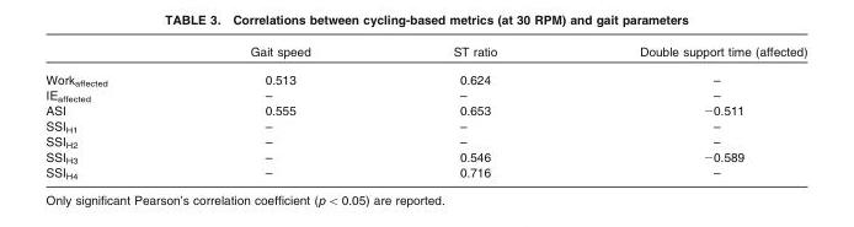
<table><thead><tr><td></td><td>Gait speed</td><td>ST ratio</td><td>Double support time (affected)</td></tr></thead><tbody><tr><td>Work<sub>affected</sub></td><td>0.513</td><td>0.624</td><td>–</td></tr><tr><td>IE<sub>affected</sub></td><td>–</td><td>–</td><td>–</td></tr><tr><td>ASI</td><td>0.555</td><td>0.653</td><td>−0.511</td></tr><tr><td>SSI<sub>H1</sub></td><td>–</td><td>–</td><td>–</td></tr><tr><td>SSI<sub>H2</sub></td><td>–</td><td>–</td><td>–</td></tr><tr><td>SSI<sub>H3</sub></td><td>–</td><td>0.546</td><td>−0.589</td></tr><tr><td>SSI<sub>H4</sub></td><td>–</td><td>0.716</td><td>–</td></tr></tbody></table>